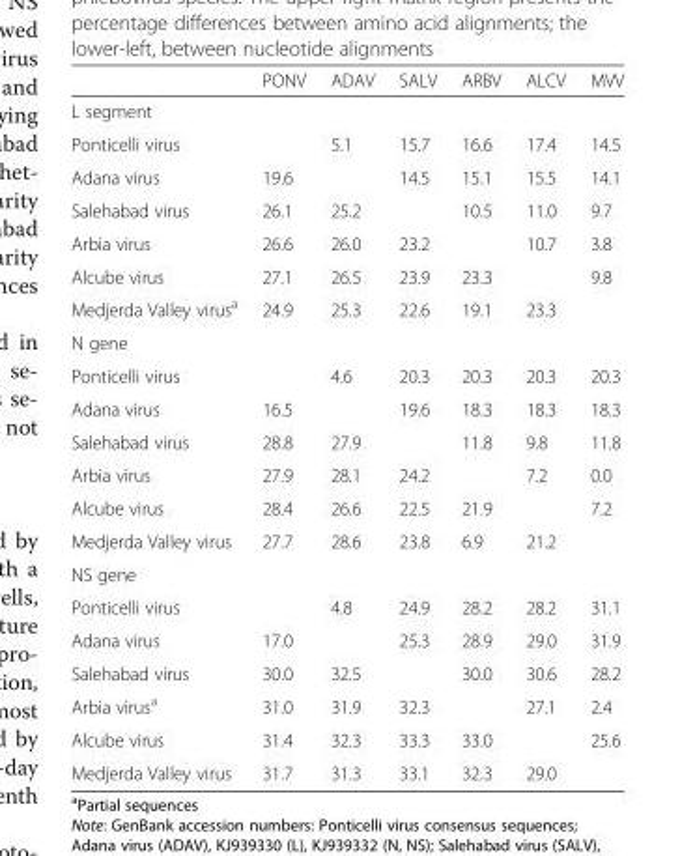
<table><thead><tr><td></td><td>PONV</td><td>ADAV</td><td>SALV</td><td>ARBV</td><td>ALCV</td><td>MVV</td></tr></thead><tbody><tr><td colspan="7">L segment</td></tr><tr><td>Ponticelli virus</td><td></td><td>5.1</td><td>15.7</td><td>16.6</td><td>17.4</td><td>14.5</td></tr><tr><td>Adana virus</td><td>19.6</td><td></td><td>14.5</td><td>15.1</td><td>15.5</td><td>14.1</td></tr><tr><td>Salehabad virus</td><td>26.1</td><td>25.2</td><td></td><td>10.5</td><td>11.0</td><td>9.7</td></tr><tr><td>Arbia virus</td><td>26.6</td><td>26.0</td><td>23.2</td><td></td><td>10.7</td><td>3.8</td></tr><tr><td>Alcube virus</td><td>27.1</td><td>26.5</td><td>23.9</td><td>23.3</td><td></td><td>9.8</td></tr><tr><td>Medjerda Valley virus<sup>a</sup></td><td>24.9</td><td>25.3</td><td>22.6</td><td>19.1</td><td>23.3</td><td></td></tr><tr><td colspan="7">N gene</td></tr><tr><td>Ponticelli virus</td><td></td><td>4.6</td><td>20.3</td><td>20.3</td><td>20.3</td><td>20.3</td></tr><tr><td>Adana virus</td><td>16.5</td><td></td><td>19.6</td><td>18.3</td><td>18.3</td><td>18.3</td></tr><tr><td>Salehabad virus</td><td>28.8</td><td>27.9</td><td></td><td>11.8</td><td>9.8</td><td>11.8</td></tr><tr><td>Arbia virus</td><td>27.9</td><td>28.1</td><td>24.2</td><td></td><td>7.2</td><td>0.0</td></tr><tr><td>Alcube virus</td><td>28.4</td><td>26.6</td><td>22.5</td><td>21.9</td><td></td><td>7.2</td></tr><tr><td>Medjerda Valley virus</td><td>27.7</td><td>28.6</td><td>23.8</td><td>6.9</td><td>21.2</td><td></td></tr><tr><td colspan="7">NS gene</td></tr><tr><td>Ponticelli virus</td><td></td><td>4.8</td><td>24.9</td><td>28.2</td><td>28.2</td><td>31.1</td></tr><tr><td>Adana virus</td><td>17.0</td><td></td><td>25.3</td><td>28.9</td><td>29.0</td><td>31.9</td></tr><tr><td>Salehabad virus</td><td>30.0</td><td>32.5</td><td></td><td>30.0</td><td>30.6</td><td>28.2</td></tr><tr><td>Arbia virus<sup>a</sup></td><td>31.0</td><td>31.9</td><td>32.3</td><td></td><td>27.1</td><td>2.4</td></tr><tr><td>Alcube virus</td><td>31.4</td><td>32.3</td><td>33.3</td><td>33.0</td><td></td><td>25.6</td></tr><tr><td>Medjerda Valley virus</td><td>31.7</td><td>31.3</td><td>33.1</td><td>32.3</td><td>29.0</td><td></td></tr></tbody></table>